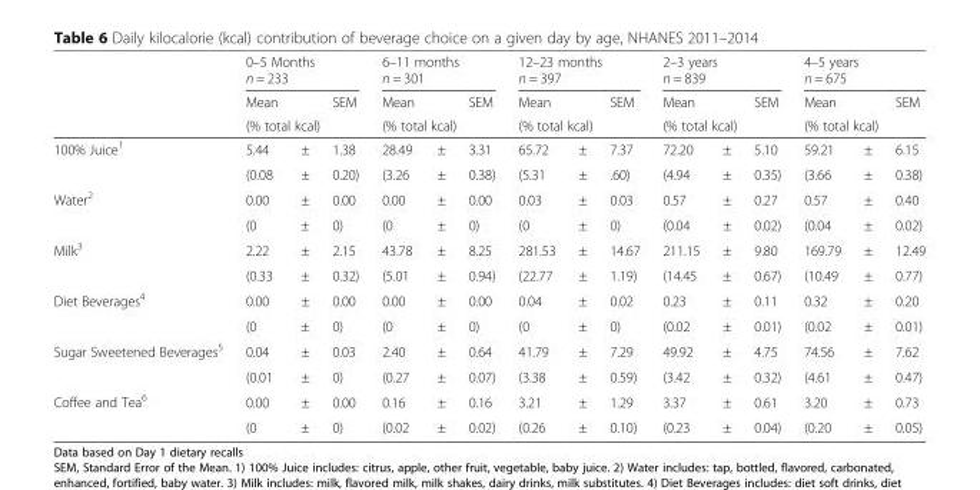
<table><thead><tr><td rowspan="3"></td><td colspan="3">0–5 Months n = 233</td><td colspan="3">6–11 months n = 301</td><td colspan="3">12–23 months n = 397</td><td colspan="3">2–3 years n = 839</td><td colspan="3">4–5 years n = 675</td></tr><tr><td>Mean</td><td></td><td>SEM</td><td>Mean</td><td></td><td>SEM</td><td>Mean</td><td></td><td>SEM</td><td>Mean</td><td></td><td>SEM</td><td>Mean</td><td></td><td>SEM</td></tr><tr><td colspan="3">(% total kcal)</td><td colspan="3">(% total kcal)</td><td colspan="3">(% total kcal)</td><td colspan="3">(% total kcal)</td><td colspan="3">(% total kcal)</td></tr></thead><tbody><tr><td rowspan="2">100% Juice<sup>1</sup></td><td>5.44</td><td>±</td><td>1.38</td><td>28.49</td><td>±</td><td>3.31</td><td>65.72</td><td>±</td><td>7.37</td><td>72.20</td><td>±</td><td>5.10</td><td>59.21</td><td>±</td><td>6.15</td></tr><tr><td>(0.08</td><td>±</td><td>0.20)</td><td>(3.26</td><td>±</td><td>0.38)</td><td>(5.31</td><td>±</td><td>.60)</td><td>(4.94</td><td>±</td><td>0.35)</td><td>(3.66</td><td>±</td><td>0.38)</td></tr><tr><td rowspan="2">Water<sup>2</sup></td><td>0.00</td><td>±</td><td>0.00</td><td>0.00</td><td>±</td><td>0.00</td><td>0.03</td><td>±</td><td>0.03</td><td>0.57</td><td>±</td><td>0.27</td><td>0.57</td><td>±</td><td>0.40</td></tr><tr><td>(0</td><td>±</td><td>0)</td><td>(0</td><td>±</td><td>0)</td><td>(0</td><td>±</td><td>0)</td><td>(0.04</td><td>±</td><td>0.02)</td><td>(0.04</td><td>±</td><td>0.02)</td></tr><tr><td rowspan="2">Milk<sup>3</sup></td><td>2.22</td><td>±</td><td>2.15</td><td>43.78</td><td>±</td><td>8.25</td><td>281.53</td><td>±</td><td>14.67</td><td>211.15</td><td>±</td><td>9.80</td><td>169.79</td><td>±</td><td>12.49</td></tr><tr><td>(0.33</td><td>±</td><td>0.32)</td><td>(5.01</td><td>±</td><td>0.94)</td><td>(22.77</td><td>±</td><td>1.19)</td><td>(14.45</td><td>±</td><td>0.67)</td><td>(10.49</td><td>±</td><td>0.77)</td></tr><tr><td rowspan="2">Diet Beverages<sup>4</sup></td><td>0.00</td><td>±</td><td>0.00</td><td>0.00</td><td>±</td><td>0.00</td><td>0.04</td><td>±</td><td>0.02</td><td>0.23</td><td>±</td><td>0.11</td><td>0.32</td><td>±</td><td>0.20</td></tr><tr><td>(0</td><td>±</td><td>0)</td><td>(0</td><td>±</td><td>0)</td><td>(0</td><td>±</td><td>0)</td><td>(0.02</td><td>±</td><td>0.01)</td><td>(0.02</td><td>±</td><td>0.01)</td></tr><tr><td rowspan="2">Sugar Sweetened Beverages<sup>5</sup></td><td>0.04</td><td>±</td><td>0.03</td><td>2.40</td><td>±</td><td>0.64</td><td>41.79</td><td>±</td><td>7.29</td><td>49.92</td><td>±</td><td>4.75</td><td>74.56</td><td>±</td><td>7.62</td></tr><tr><td>(0.01</td><td>±</td><td>0)</td><td>(0.27</td><td>±</td><td>0.07)</td><td>(3.38</td><td>±</td><td>0.59)</td><td>(3.42</td><td>±</td><td>0.32)</td><td>(4.61</td><td>±</td><td>0.47)</td></tr><tr><td rowspan="2">Coffee and Tea<sup>6</sup></td><td>0.00</td><td>±</td><td>0.00</td><td>0.16</td><td>±</td><td>0.16</td><td>3.21</td><td>±</td><td>1.29</td><td>3.37</td><td>±</td><td>0.61</td><td>3.20</td><td>±</td><td>0.73</td></tr><tr><td>(0</td><td>±</td><td>0)</td><td>(0.02</td><td>±</td><td>0.02)</td><td>(0.26</td><td>±</td><td>0.10)</td><td>(0.23</td><td>±</td><td>0.04)</td><td>(0.20</td><td>±</td><td>0.05)</td></tr></tbody></table>